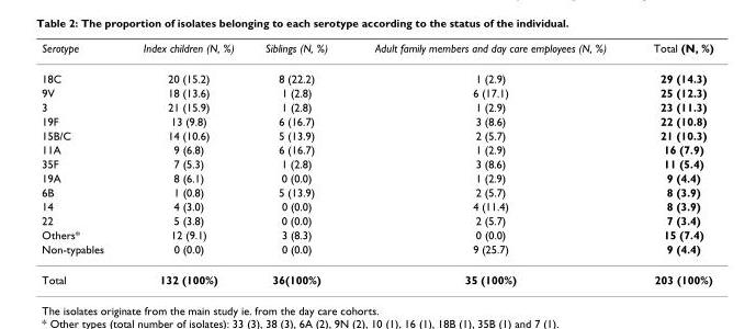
<table><thead><tr><td>Serotype</td><td>Index children (N, %)</td><td>Siblings (N, %)</td><td>Adult family members and day care employees (N, %)</td><td>Total (N, %)</td></tr></thead><tbody><tr><td>18C</td><td>20 (15.2)</td><td>8 (22.2)</td><td>1 (2.9)</td><td>29 (14.3)</td></tr><tr><td>9V</td><td>18 (13.6)</td><td>1 (2.8)</td><td>6 (17.1)</td><td>25 (12.3)</td></tr><tr><td>3</td><td>21 (15.9)</td><td>1 (2.8)</td><td>1 (2.9)</td><td>23 (11.3)</td></tr><tr><td>19F</td><td>13 (9.8)</td><td>6 (16.7)</td><td>3 (8.6)</td><td>22 (10.8)</td></tr><tr><td>15B/C</td><td>14 (10.6)</td><td>5 (13.9)</td><td>2 (5.7)</td><td>21 (10.3)</td></tr><tr><td>11A</td><td>9 (6.8)</td><td>6 (16.7)</td><td>1 (2.9)</td><td>16 (7.9)</td></tr><tr><td>35F</td><td>7 (5.3)</td><td>1 (2.8)</td><td>3 (8.6)</td><td>11 (5.4)</td></tr><tr><td>19A</td><td>8 (6.1)</td><td>0 (0.0)</td><td>1 (2.9)</td><td>9 (4.4)</td></tr><tr><td>6B</td><td>1 (0.8)</td><td>5 (13.9)</td><td>2 (5.7)</td><td>8 (3.9)</td></tr><tr><td>14</td><td>4 (3.0)</td><td>0 (0.0)</td><td>4 (11.4)</td><td>8 (3.9)</td></tr><tr><td>22</td><td>5 (3.8)</td><td>0 (0.0)</td><td>2 (5.7)</td><td>7 (3.4)</td></tr><tr><td>Others*</td><td>12 (9.1)</td><td>3 (8.3)</td><td>0 (0.0)</td><td>15 (7.4)</td></tr><tr><td>Non-typables</td><td>0 (0.0)</td><td>0 (0.0)</td><td>9 (25.7)</td><td>9 (4.4)</td></tr><tr><td>Total</td><td>132 (100%)</td><td>36(100%)</td><td>35 (100%)</td><td>203 (100%)</td></tr></tbody></table>